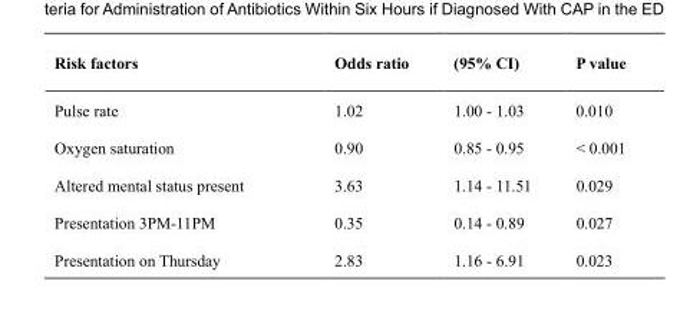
<table><thead><tr><td>Risk factors</td><td>Odds ratio</td><td>(95% CI)</td><td>P value</td></tr></thead><tbody><tr><td>Pulse rate</td><td>1.02</td><td>1.00 - 1.03</td><td>0.010</td></tr><tr><td>Oxygen saturation</td><td>0.90</td><td>0.85 - 0.95</td><td>&lt; 0.001</td></tr><tr><td>Altered mental status present</td><td>3.63</td><td>1.14 - 11.51</td><td>0.029</td></tr><tr><td>Presentation 3PM-11PM</td><td>0.35</td><td>0.14 - 0.89</td><td>0.027</td></tr><tr><td>Presentation on Thursday</td><td>2.83</td><td>1.16 - 6.91</td><td>0.023</td></tr></tbody></table>